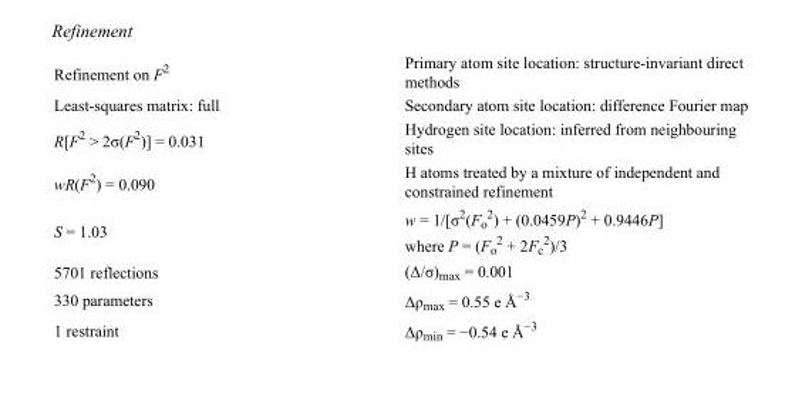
<table><tbody><tr><td>Refinement on F<sup>2</sup></td><td>Primary atom site location: structure-invariant direct methods</td></tr><tr><td>Least-squares matrix: full</td><td>Secondary atom site location: difference Fourier map</td></tr><tr><td>R[F<sup>2</sup> &gt; 2σ(F<sup>2</sup>)] = 0.031</td><td>Hydrogen site location: inferred from neighbouring sites</td></tr><tr><td>wR(F<sup>2</sup>) = 0.090</td><td>H atoms treated by a mixture of independent and constrained refinement</td></tr><tr><td>S = 1.03</td><td>w = 1/[σ<sup>2</sup>(F<sub>o</sub> <sup>2</sup>) + (0.0459P)<sup>2</sup> + 0.9446P] where P = (F<sub>o</sub> <sup>2</sup> + 2F<sub>c</sub> <sup>2</sup>)/3</td></tr><tr><td>5701 reflections</td><td>(Δ/σ)<sub>max</sub> = 0.001</td></tr><tr><td>330 parameters</td><td>Δρ<sub>max</sub> = 0.55 e Å<sup>−3</sup></td></tr><tr><td>1 restraint</td><td>Δρ<sub>min</sub> = −0.54 e Å<sup>−3</sup></td></tr></tbody></table>